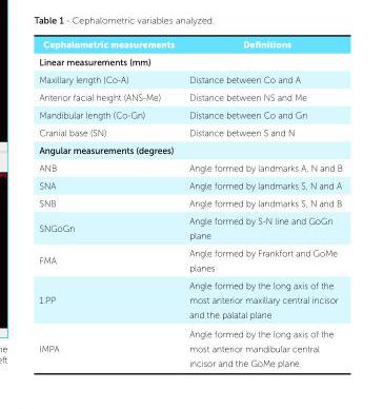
<table><thead><tr><td>Cephalometric measurements</td><td>Definitions</td></tr></thead><tbody><tr><td colspan="2">Linear measurements (mm)</td></tr><tr><td>Maxillary length (Co-A)</td><td>Distance between Co and A</td></tr><tr><td>Anterior facial height (ANS-Me)</td><td>Distance between NS and Me</td></tr><tr><td>Mandibular length (Co-Gn)</td><td>Distance between Co and Gn</td></tr><tr><td>Cranial base (SN)</td><td>Distance between S and N</td></tr><tr><td colspan="2">Angular measurements (degrees)</td></tr><tr><td>ANB</td><td>Angle formed by landmarks A, N and B</td></tr><tr><td>SNA</td><td>Angle formed by landmarks S, N and A</td></tr><tr><td>SNB</td><td>Angle formed by landmarks S, N and B</td></tr><tr><td>SNGoGn</td><td>Angle formed by S-N line and GoGn plane</td></tr><tr><td>FMA</td><td>Angle formed by Frankfort and GoMe planes</td></tr><tr><td>1.PP</td><td>Angle formed by the long axis of the most anterior maxillary central incisor and the palatal plane</td></tr><tr><td>IMPA</td><td>Angle formed by the long axis of the most anterior mandibular central incisor and the GoMe plane</td></tr></tbody></table>